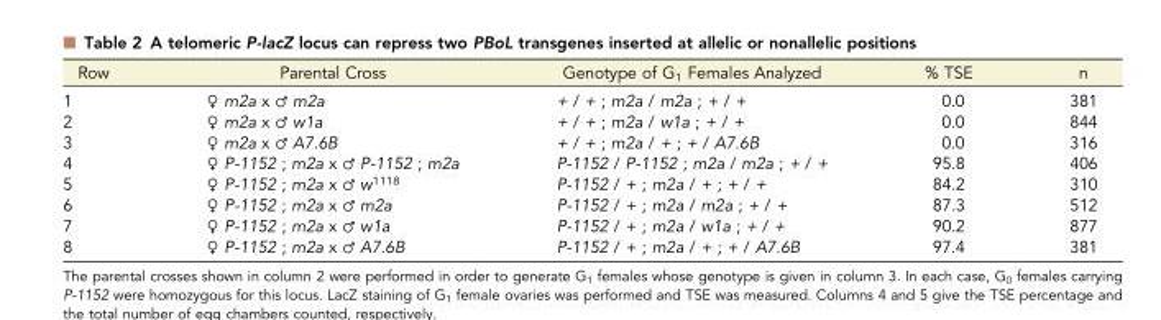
<table><thead><tr><td>Row</td><td>Parental Cross</td><td>Genotype of G<sub>1</sub> Females Analyzed</td><td>% TSE</td><td>n</td></tr></thead><tbody><tr><td>1</td><td>♀ m2a x ♂ m2a</td><td>+ / + ; m2a / m2a ; + / +</td><td>0.0</td><td>381</td></tr><tr><td>2</td><td>♀ m2a x ♂ w1a</td><td>+ / + ; m2a / w1a ; + / +</td><td>0.0</td><td>844</td></tr><tr><td>3</td><td>♀ m2a x ♂ A7.6B</td><td>+ / + ; m2a / + ; + / A7.6B</td><td>0.0</td><td>316</td></tr><tr><td>4</td><td>♀ P-1152 ; m2a x ♂ P-1152 ; m2a</td><td>P-1152 / P-1152 ; m2a / m2a ; + / +</td><td>95.8</td><td>406</td></tr><tr><td>5</td><td>♀ P-1152 ; m2a x ♂ w<sup>1118</sup></td><td>P-1152 / + ; m2a / + ; + / +</td><td>84.2</td><td>310</td></tr><tr><td>6</td><td>♀ P-1152 ; m2a x ♂ m2a</td><td>P-1152 / + ; m2a / m2a ; + / +</td><td>87.3</td><td>512</td></tr><tr><td>7</td><td>♀ P-1152 ; m2a x ♂ w1a</td><td>P-1152 / + ; m2a / w1a ; + / +</td><td>90.2</td><td>877</td></tr><tr><td>8</td><td>♀ P-1152 ; m2a x ♂ A7.6B</td><td>P-1152 / + ; m2a / + ; + / A7.6B</td><td>97.4</td><td>381</td></tr></tbody></table>